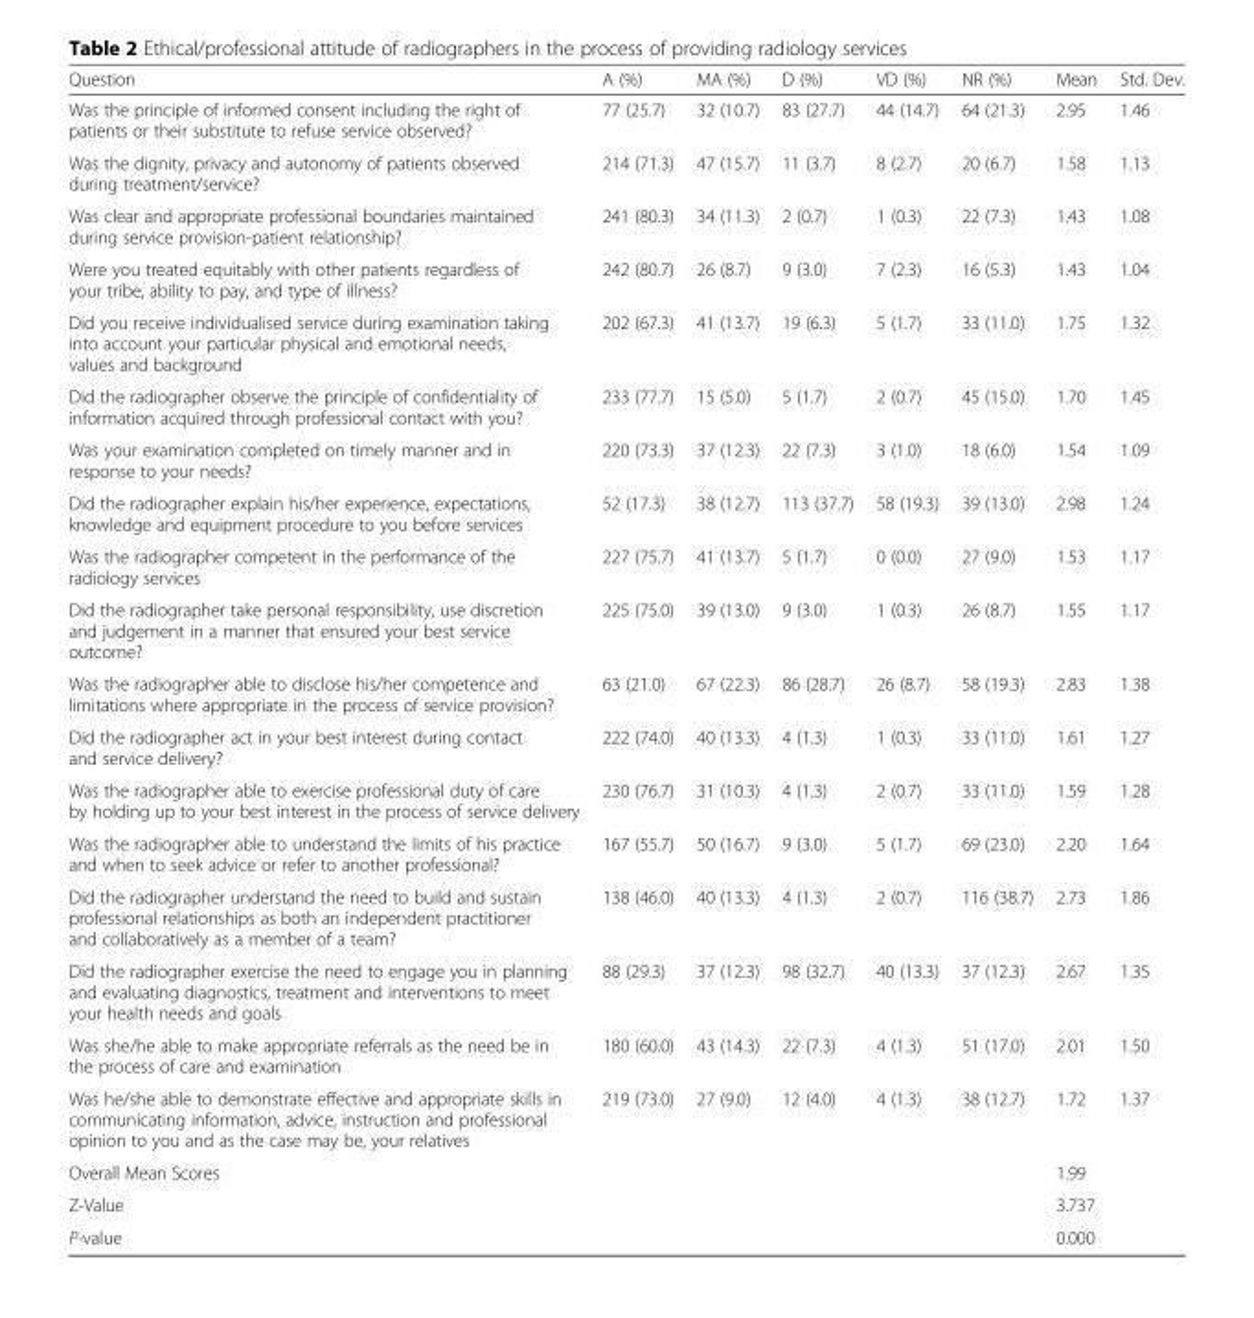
<table><thead><tr><td>Question</td><td>A (%)</td><td>MA (%)</td><td>D (%)</td><td>VD (%)</td><td>NR (%)</td><td>Mean</td><td>Std. Dev.</td></tr></thead><tbody><tr><td>Was the principle of informed consent including the right of patients or their substitute to refuse service observed?</td><td>77 (25.7)</td><td>32 (10.7)</td><td>83 (27.7)</td><td>44 (14.7)</td><td>64 (21.3)</td><td>2.95</td><td>1.46</td></tr><tr><td>Was the dignity, privacy and autonomy of patients observed during treatment/service?</td><td>214 (71.3)</td><td>47 (15.7)</td><td>11 (3.7)</td><td>8 (2.7)</td><td>20 (6.7)</td><td>1.58</td><td>1.13</td></tr><tr><td>Was clear and appropriate professional boundaries maintained during service provision-patient relationship?</td><td>241 (80.3)</td><td>34 (11.3)</td><td>2 (0.7)</td><td>1 (0.3)</td><td>22 (7.3)</td><td>1.43</td><td>1.08</td></tr><tr><td>Were you treated equitably with other patients regardless of your tribe, ability to pay, and type of illness?</td><td>242 (80.7)</td><td>26 (8.7)</td><td>9 (3.0)</td><td>7 (2.3)</td><td>16 (5.3)</td><td>1.43</td><td>1.04</td></tr><tr><td>Did you receive individualised service during examination taking into account your particular physical and emotional needs, values and background</td><td>202 (67.3)</td><td>41 (13.7)</td><td>19 (6.3)</td><td>5 (1.7)</td><td>33 (11.0)</td><td>1.75</td><td>1.32</td></tr><tr><td>Did the radiographer observe the principle of confidentiality of information acquired through professional contact with you?</td><td>233 (77.7)</td><td>15 (5.0)</td><td>5 (1.7)</td><td>2 (0.7)</td><td>45 (15.0)</td><td>1.70</td><td>1.45</td></tr><tr><td>Was your examination completed on timely manner and in response to your needs?</td><td>220 (73.3)</td><td>37 (12.3)</td><td>22 (7.3)</td><td>3 (1.0)</td><td>18 (6.0)</td><td>1.54</td><td>1.09</td></tr><tr><td>Did the radiographer explain his/her experience, expectations, knowledge and equipment procedure to you before services</td><td>52 (17.3)</td><td>38 (12.7)</td><td>113 (37.7)</td><td>58 (19.3)</td><td>39 (13.0)</td><td>2.98</td><td>1.24</td></tr><tr><td>Was the radiographer competent in the performance of the radiology services</td><td>227 (75.7)</td><td>41 (13.7)</td><td>5 (1.7)</td><td>0 (0.0)</td><td>27 (9.0)</td><td>1.53</td><td>1.17</td></tr><tr><td>Did the radiographer take personal responsibility, use discretion and judgement in a manner that ensured your best service outcome?</td><td>225 (75.0)</td><td>39 (13.0)</td><td>9 (3.0)</td><td>1 (0.3)</td><td>26 (8.7)</td><td>1.55</td><td>1.17</td></tr><tr><td>Was the radiographer able to disclose his/her competence and limitations where appropriate in the process of service provision?</td><td>63 (21.0)</td><td>67 (22.3)</td><td>86 (28.7)</td><td>26 (8.7)</td><td>58 (19.3)</td><td>2.83</td><td>1.38</td></tr><tr><td>Did the radiographer act in your best interest during contact and service delivery?</td><td>222 (74.0)</td><td>40 (13.3)</td><td>4 (1.3)</td><td>1 (0.3)</td><td>33 (11.0)</td><td>1.61</td><td>1.27</td></tr><tr><td>Was the radiographer able to exercise professional duty of care by holding up to your best interest in the process of service delivery</td><td>230 (76.7)</td><td>31 (10.3)</td><td>4 (1.3)</td><td>2 (0.7)</td><td>33 (11.0)</td><td>1.59</td><td>1.28</td></tr><tr><td>Was the radiographer able to understand the limits of his practice and when to seek advice or refer to another professional?</td><td>167 (55.7)</td><td>50 (16.7)</td><td>9 (3.0)</td><td>5 (1.7)</td><td>69 (23.0)</td><td>2.20</td><td>1.64</td></tr><tr><td>Did the radiographer understand the need to build and sustain professional relationships as both an independent practitioner and collaboratively as a member of a team?</td><td>138 (46.0)</td><td>40 (13.3)</td><td>4 (1.3)</td><td>2 (0.7)</td><td>116 (38.7)</td><td>2.73</td><td>1.86</td></tr><tr><td>Did the radiographer exercise the need to engage you in planning and evaluating diagnostics, treatment and interventions to meet your health needs and goals</td><td>88 (29.3)</td><td>37 (12.3)</td><td>98 (32.7)</td><td>40 (13.3)</td><td>37 (12.3)</td><td>2.67</td><td>1.35</td></tr><tr><td>Was she/he able to make appropriate referrals as the need be in the process of care and examination</td><td>180 (60.0)</td><td>43 (14.3)</td><td>22 (7.3)</td><td>4 (1.3)</td><td>51 (17.0)</td><td>2.01</td><td>1.50</td></tr><tr><td>Was he/she able to demonstrate effective and appropriate skills in communicating information, advice, instruction and professional opinion to you and as the case may be, your relatives</td><td>219 (73.0)</td><td>27 (9.0)</td><td>12 (4.0)</td><td>4 (1.3)</td><td>38 (12.7)</td><td>1.72</td><td>1.37</td></tr><tr><td colspan="6">Overall Mean Scores</td><td colspan="2">1.99</td></tr><tr><td colspan="6">Z-Value</td><td colspan="2">3.737</td></tr><tr><td colspan="6">P-value</td><td colspan="2">0.000</td></tr></tbody></table>